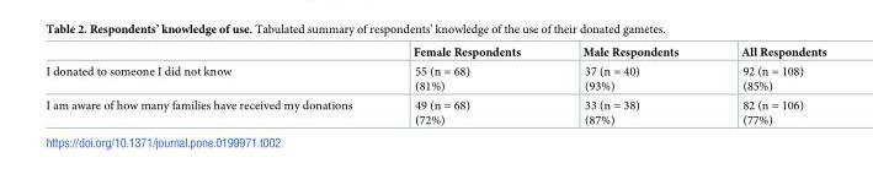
<table><thead><tr><td></td><td>Female Respondents</td><td>Male Respondents</td><td>All Respondents</td></tr></thead><tbody><tr><td>I donated to someone I did not know</td><td>55 (n = 68) (81%)</td><td>37 (n = 40) (93%)</td><td>92 (n = 108) (85%)</td></tr><tr><td>I am aware of how many families have received my donations</td><td>49 (n = 68) (72%)</td><td>33 (n = 38) (87%)</td><td>82 (n = 106) (77%)</td></tr></tbody></table>